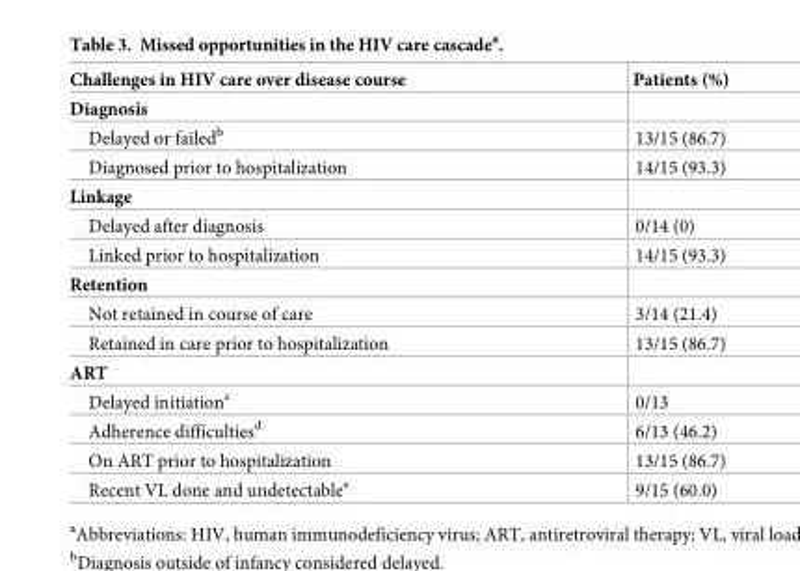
<table><thead><tr><td>Challenges in HIV care over disease course</td><td>Patients (%)</td></tr></thead><tbody><tr><td colspan="2">Diagnosis</td></tr><tr><td>Delayed or failed<sup>b</sup></td><td>13/15 (86.7)</td></tr><tr><td>Diagnosed prior to hospitalization</td><td>14/15 (93.3)</td></tr><tr><td colspan="2">Linkage</td></tr><tr><td>Delayed after diagnosis</td><td>0/14 (0)</td></tr><tr><td>Linked prior to hospitalization</td><td>14/15 (93.3)</td></tr><tr><td colspan="2">Retention</td></tr><tr><td>Not retained in course of care</td><td>3/14 (21.4)</td></tr><tr><td>Retained in care prior to hospitalization</td><td>13/15 (86.7)</td></tr><tr><td colspan="2">ART</td></tr><tr><td>Delayed initiation<sup>c</sup></td><td>0/13</td></tr><tr><td>Adherence difficulties<sup>d</sup></td><td>6/13 (46.2)</td></tr><tr><td>On ART prior to hospitalization</td><td>13/15 (86.7)</td></tr><tr><td>Recent VL done and undetectable<sup>e</sup></td><td>9/15 (60.0)</td></tr></tbody></table>